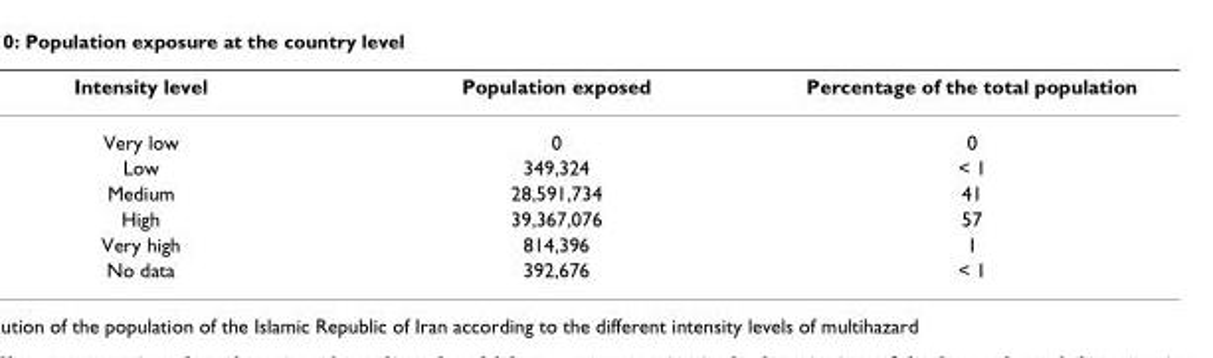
<table><thead><tr><td>Intensity level</td><td>Population exposed</td><td>Percentage of the total population</td></tr></thead><tbody><tr><td>Very low</td><td>0</td><td>0</td></tr><tr><td>Low</td><td>349,324</td><td>&lt; 1</td></tr><tr><td>Medium</td><td>28,591,734</td><td>41</td></tr><tr><td>High</td><td>39,367,076</td><td>57</td></tr><tr><td>Very high</td><td>814,396</td><td>1</td></tr><tr><td>No data</td><td>392,676</td><td>&lt; 1</td></tr></tbody></table>